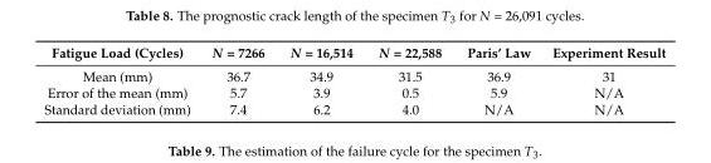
<table><thead><tr><td>Fatigue Load (Cycles)</td><td>N = 7266</td><td>N = 16,514</td><td>N = 22,588</td><td>Paris’ Law</td><td>Experiment Result</td></tr></thead><tbody><tr><td>Mean (mm)</td><td>36.7</td><td>34.9</td><td>31.5</td><td>36.9</td><td>31</td></tr><tr><td>Error of the mean (mm)</td><td>5.7</td><td>3.9</td><td>0.5</td><td>5.9</td><td>N/A</td></tr><tr><td>Standard deviation (mm)</td><td>7.4</td><td>6.2</td><td>4.0</td><td>N/A</td><td>N/A</td></tr></tbody></table>